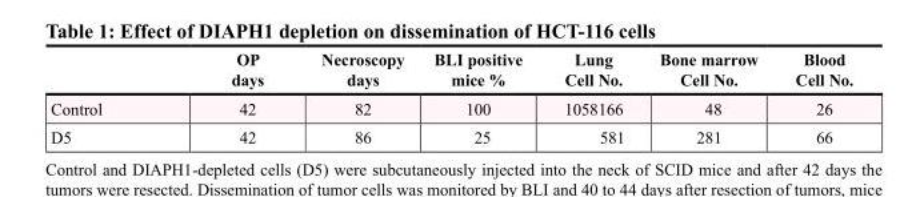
<table><thead><tr><td></td><td>OP days</td><td>Necroscopy days</td><td>BLI positive mice %</td><td>Lung Cell No.</td><td>Bone marrow Cell No.</td><td>Blood Cell No.</td></tr></thead><tbody><tr><td>Control</td><td>42</td><td>82</td><td>100</td><td>1058166</td><td>48</td><td>26</td></tr><tr><td>D5</td><td>42</td><td>86</td><td>25</td><td>581</td><td>281</td><td>66</td></tr></tbody></table>